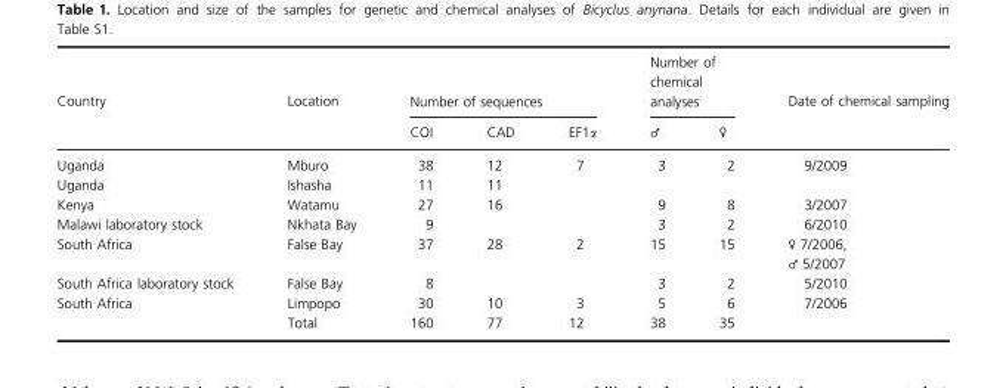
<table><thead><tr><td rowspan="2">Country</td><td rowspan="2">Location</td><td colspan="3">Number of sequences</td><td colspan="2">Number of chemical analyses</td><td rowspan="2">Date of chemical sampling</td></tr><tr><td>COI</td><td>CAD</td><td>EF1α</td><td>♂</td><td>♀</td></tr></thead><tbody><tr><td>Uganda</td><td>Mburo</td><td>38</td><td>12</td><td>7</td><td>3</td><td>2</td><td>9/2009</td></tr><tr><td>Uganda</td><td>Ishasha</td><td>11</td><td>11</td><td></td><td></td><td></td><td></td></tr><tr><td>Kenya</td><td>Watamu</td><td>27</td><td>16</td><td></td><td>9</td><td>8</td><td>3/2007</td></tr><tr><td>Malawi laboratory stock</td><td>Nkhata Bay</td><td>9</td><td></td><td></td><td>3</td><td>2</td><td>6/2010</td></tr><tr><td>South Africa</td><td>False Bay</td><td>37</td><td>28</td><td>2</td><td>15</td><td>15</td><td>♀ 7/2006, ♂ 5/2007</td></tr><tr><td>South Africa laboratory stock</td><td>False Bay</td><td>8</td><td></td><td></td><td>3</td><td>2</td><td>5/2010</td></tr><tr><td rowspan="2">South Africa</td><td>Limpopo</td><td>30</td><td>10</td><td>3</td><td>5</td><td>6</td><td>7/2006</td></tr><tr><td>Total</td><td>160</td><td>77</td><td>12</td><td>38</td><td>35</td><td></td></tr></tbody></table>